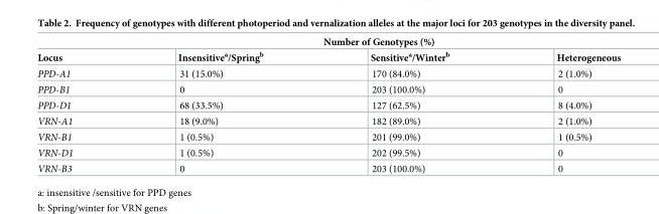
<table><thead><tr><td colspan="4">Number of Genotypes (%)</td></tr><tr><td>Locus</td><td>Insensitive<sup>a</sup>/Spring<sup>b</sup></td><td>Sensitive<sup>a</sup>/Winter<sup>b</sup></td><td>Heterogeneous</td></tr></thead><tbody><tr><td>PPD-A1</td><td>31 (15.0%)</td><td>170 (84.0%)</td><td>2 (1.0%)</td></tr><tr><td>PPD-B1</td><td>0</td><td>203 (100.0%)</td><td>0</td></tr><tr><td>PPD-D1</td><td>68 (33.5%)</td><td>127 (62.5%)</td><td>8 (4.0%)</td></tr><tr><td>VRN-A1</td><td>18 (9.0%)</td><td>182 (89.0%)</td><td>2 (1.0%)</td></tr><tr><td>VRN-B1</td><td>1 (0.5%)</td><td>201 (99.0%)</td><td>1 (0.5%)</td></tr><tr><td>VRN-D1</td><td>1 (0.5%)</td><td>202 (99.5%)</td><td>0</td></tr><tr><td>VRN-B3</td><td>0</td><td>203 (100.0%)</td><td>0</td></tr></tbody></table>